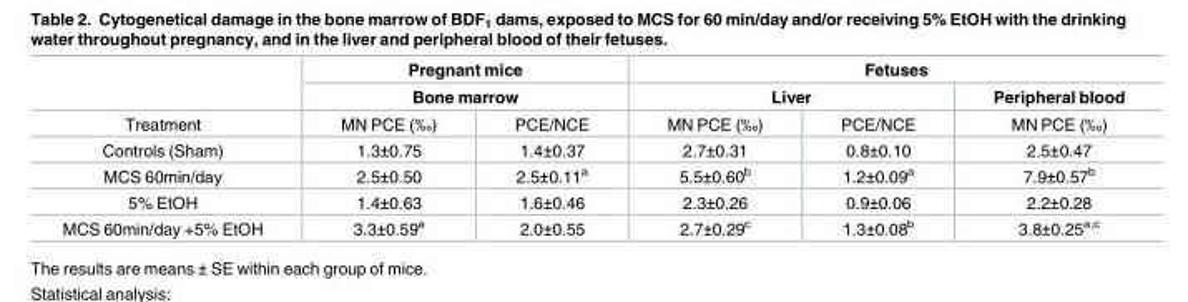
<table><thead><tr><td rowspan="3">Treatment</td><td rowspan="2" colspan="2">Pregnant mice Bone marrow</td><td colspan="3">Fetuses</td></tr><tr><td colspan="2">Liver</td><td rowspan="2">Peripheral blood MN PCE (‰)</td></tr><tr><td>MN PCE (‰)</td><td>PCE/NCE</td><td>MN PCE (‰)</td><td>PCE/NCE</td></tr></thead><tbody><tr><td>Controls (Sham)</td><td>1.3±0.75</td><td>1.4±0.37</td><td>2.7±0.31</td><td>0.8±0.10</td><td>2.5±0.47</td></tr><tr><td>MCS 60min/day</td><td>2.5±0.50</td><td>2.5±0.11<sup>a</sup></td><td>5.5±0.60<sup>b</sup></td><td>1.2±0.09<sup>a</sup></td><td>7.9±0.57<sup>b</sup></td></tr><tr><td>5% EtOH</td><td>1.4±0.63</td><td>1.6±0.46</td><td>2.3±0.26</td><td>0.9±0.06</td><td>2.2±0.28</td></tr><tr><td>MCS 60min/day +5% EtOH</td><td>3.3±0.59<sup>a</sup></td><td>2.0±0.55</td><td>2.7±0.29<sup>c</sup></td><td>1.3±0.08<sup>b</sup></td><td>3.8±0.25<sup>a,c</sup></td></tr></tbody></table>